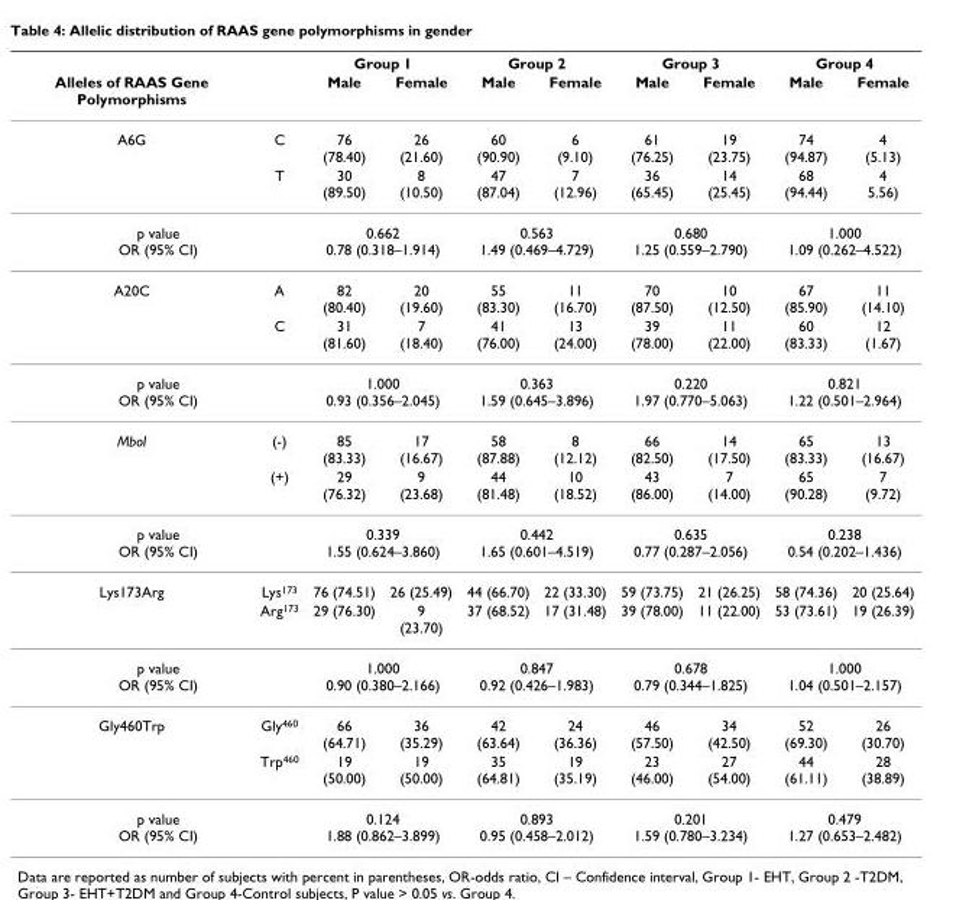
<table><thead><tr><td rowspan="2">Alleles of RAAS Gene Polymorphisms</td><td rowspan="2"></td><td colspan="2">Group 1</td><td colspan="2">Group 2</td><td colspan="2">Group 3</td><td colspan="2">Group 4</td></tr><tr><td>Male</td><td>Female</td><td>Male</td><td>Female</td><td>Male</td><td>Female</td><td>Male</td><td>Female</td></tr></thead><tbody><tr><td rowspan="2">A6G</td><td>C</td><td>76 (78.40)</td><td>26 (21.60)</td><td>60 (90.90)</td><td>6 (9.10)</td><td>61 (76.25)</td><td>19 (23.75)</td><td>74 (94.87)</td><td>4 (5.13)</td></tr><tr><td>T</td><td>30 (89.50)</td><td>8 (10.50)</td><td>47 (87.04)</td><td>7 (12.96)</td><td>36 (65.45)</td><td>14 (25.45)</td><td>68 (94.44)</td><td>4 5.56)</td></tr><tr><td colspan="2">p value OR (95% CI)</td><td colspan="2">0.662 0.78 (0.318–1.914)</td><td colspan="2">0.563 1.49 (0.469–4.729)</td><td colspan="2">0.680 1.25 (0.559–2.790)</td><td colspan="2">1.000 1.09 (0.262–4.522)</td></tr><tr><td rowspan="2">A20C</td><td>A</td><td>82 (80.40)</td><td>20 (19.60)</td><td>55 (83.30)</td><td>11 (16.70)</td><td>70 (87.50)</td><td>10 (12.50)</td><td>67 (85.90)</td><td>11 (14.10)</td></tr><tr><td>C</td><td>31 (81.60)</td><td>7 (18.40)</td><td>41 (76.00)</td><td>13 (24.00)</td><td>39 (78.00)</td><td>11 (22.00)</td><td>60 (83.33)</td><td>12 (1.67)</td></tr><tr><td colspan="2">p value OR (95% CI)</td><td colspan="2">1.000 0.93 (0.356–2.045)</td><td colspan="2">0.363 1.59 (0.645–3.896)</td><td colspan="2">0.220 1.97 (0.770–5.063)</td><td colspan="2">0.821 1.22 (0.501–2.964)</td></tr><tr><td rowspan="2">MboI</td><td>(-)</td><td>85 (83.33)</td><td>17 (16.67)</td><td>58 (87.88)</td><td>8 (12.12)</td><td>66 (82.50)</td><td>14 (17.50)</td><td>65 (83.33)</td><td>13 (16.67)</td></tr><tr><td>(+)</td><td>29 (76.32)</td><td>9 (23.68)</td><td>44 (81.48)</td><td>10 (18.52)</td><td>43 (86.00)</td><td>7 (14.00)</td><td>65 (90.28)</td><td>7 (9.72)</td></tr><tr><td colspan="2">p value OR (95% CI)</td><td colspan="2">0.339 1.55 (0.624–3.860)</td><td colspan="2">0.442 1.65 (0.601–4.519)</td><td colspan="2">0.635 0.77 (0.287–2.056)</td><td colspan="2">0.238 0.54 (0.202–1.436)</td></tr><tr><td rowspan="2">Lys173Arg</td><td>Lys<sup>173</sup></td><td>76 (74.51)</td><td>26 (25.49)</td><td>44 (66.70)</td><td>22 (33.30)</td><td>59 (73.75)</td><td>21 (26.25)</td><td>58 (74.36)</td><td>20 (25.64)</td></tr><tr><td>Arg<sup>173</sup></td><td>29 (76.30)</td><td>9 (23.70)</td><td>37 (68.52)</td><td>17 (31.48)</td><td>39 (78.00)</td><td>11 (22.00)</td><td>53 (73.61)</td><td>19 (26.39)</td></tr><tr><td colspan="2">p value OR (95% CI)</td><td colspan="2">1.000 0.90 (0.380–2.166)</td><td colspan="2">0.847 0.92 (0.426–1.983)</td><td colspan="2">0.678 0.79 (0.344–1.825)</td><td colspan="2">1.000 1.04 (0.501–2.157)</td></tr><tr><td rowspan="2">Gly460Trp</td><td>Gly<sup>460</sup></td><td>66 (64.71)</td><td>36 (35.29)</td><td>42 (63.64)</td><td>24 (36.36)</td><td>46 (57.50)</td><td>34 (42.50)</td><td>52 (69.30)</td><td>26 (30.70)</td></tr><tr><td>Trp<sup>460</sup></td><td>19 (50.00)</td><td>19 (50.00)</td><td>35 (64.81)</td><td>19 (35.19)</td><td>23 (46.00)</td><td>27 (54.00)</td><td>44 (61.11)</td><td>28 (38.89)</td></tr><tr><td colspan="2">p value OR (95% CI)</td><td colspan="2">0.124 1.88 (0.862–3.899)</td><td colspan="2">0.893 0.95 (0.458–2.012)</td><td colspan="2">0.201 1.59 (0.780–3.234)</td><td colspan="2">0.479 1.27 (0.653–2.482)</td></tr></tbody></table>